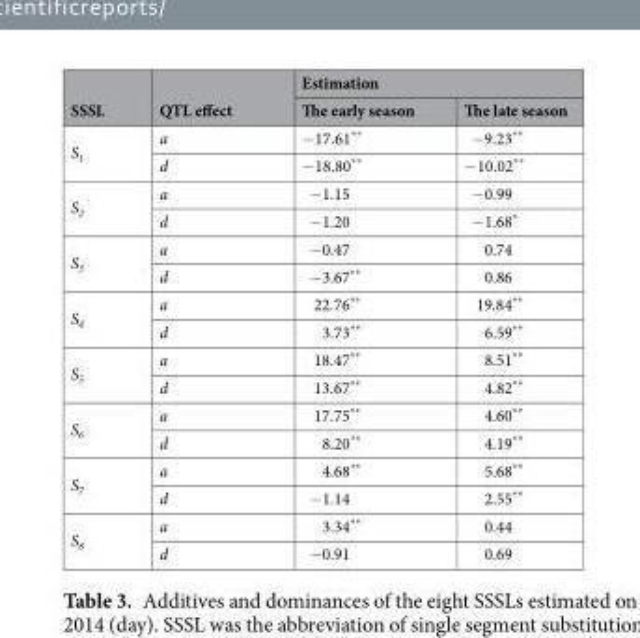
<table><thead><tr><td rowspan="2">SSSL</td><td rowspan="2">QTL effect</td><td colspan="2">Estimation</td></tr><tr><td>The early season</td><td>The late season</td></tr></thead><tbody><tr><td rowspan="2">S<sub>1</sub></td><td>a</td><td>−17.61**</td><td>−9.23**</td></tr><tr><td>d</td><td>−18.80**</td><td>−10.02**</td></tr><tr><td rowspan="2">S<sub>2</sub></td><td>a</td><td>−1.15</td><td>−0.99</td></tr><tr><td>d</td><td>−1.20</td><td>−1.68*</td></tr><tr><td rowspan="2">S<sub>3</sub></td><td>a</td><td>−0.47</td><td>0.74</td></tr><tr><td>d</td><td>−3.67**</td><td>0.86</td></tr><tr><td rowspan="2">S<sub>4</sub></td><td>a</td><td>22.76**</td><td>19.84**</td></tr><tr><td>d</td><td>3.73**</td><td>6.59**</td></tr><tr><td rowspan="2">S<sub>5</sub></td><td>a</td><td>18.47**</td><td>8.51**</td></tr><tr><td>d</td><td>13.67**</td><td>4.82**</td></tr><tr><td rowspan="2">S<sub>6</sub></td><td>a</td><td>17.75**</td><td>4.60**</td></tr><tr><td>d</td><td>8.20**</td><td>4.19**</td></tr><tr><td rowspan="2">S<sub>7</sub></td><td>a</td><td>4.68**</td><td>5.68**</td></tr><tr><td>d</td><td>−1.14</td><td>2.55**</td></tr><tr><td rowspan="2">S<sub>8</sub></td><td>a</td><td>3.34**</td><td>0.44</td></tr><tr><td>d</td><td>−0.91</td><td>0.69</td></tr></tbody></table>